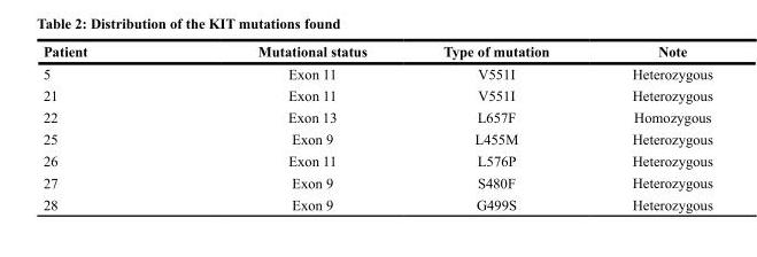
<table><thead><tr><td>Patient</td><td>Mutational status</td><td>Type of mutation</td><td>Note</td></tr></thead><tbody><tr><td>5</td><td>Exon 11</td><td>V551I</td><td>Heterozygous</td></tr><tr><td>21</td><td>Exon 11</td><td>V551I</td><td>Heterozygous</td></tr><tr><td>22</td><td>Exon 13</td><td>L657F</td><td>Homozygous</td></tr><tr><td>25</td><td>Exon 9</td><td>L455M</td><td>Heterozygous</td></tr><tr><td>26</td><td>Exon 11</td><td>L576P</td><td>Heterozygous</td></tr><tr><td>27</td><td>Exon 9</td><td>S480F</td><td>Heterozygous</td></tr><tr><td>28</td><td>Exon 9</td><td>G499S</td><td>Heterozygous</td></tr></tbody></table>